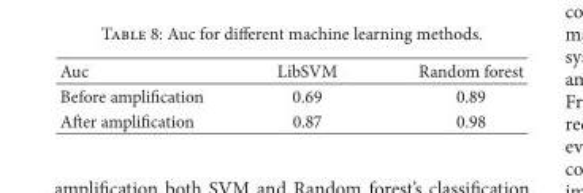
<table><thead><tr><td>Auc</td><td>LibSVM</td><td>Random forest</td></tr></thead><tbody><tr><td>Before amplification</td><td>0.69</td><td>0.89</td></tr><tr><td>After amplification</td><td>0.87</td><td>0.98</td></tr></tbody></table>